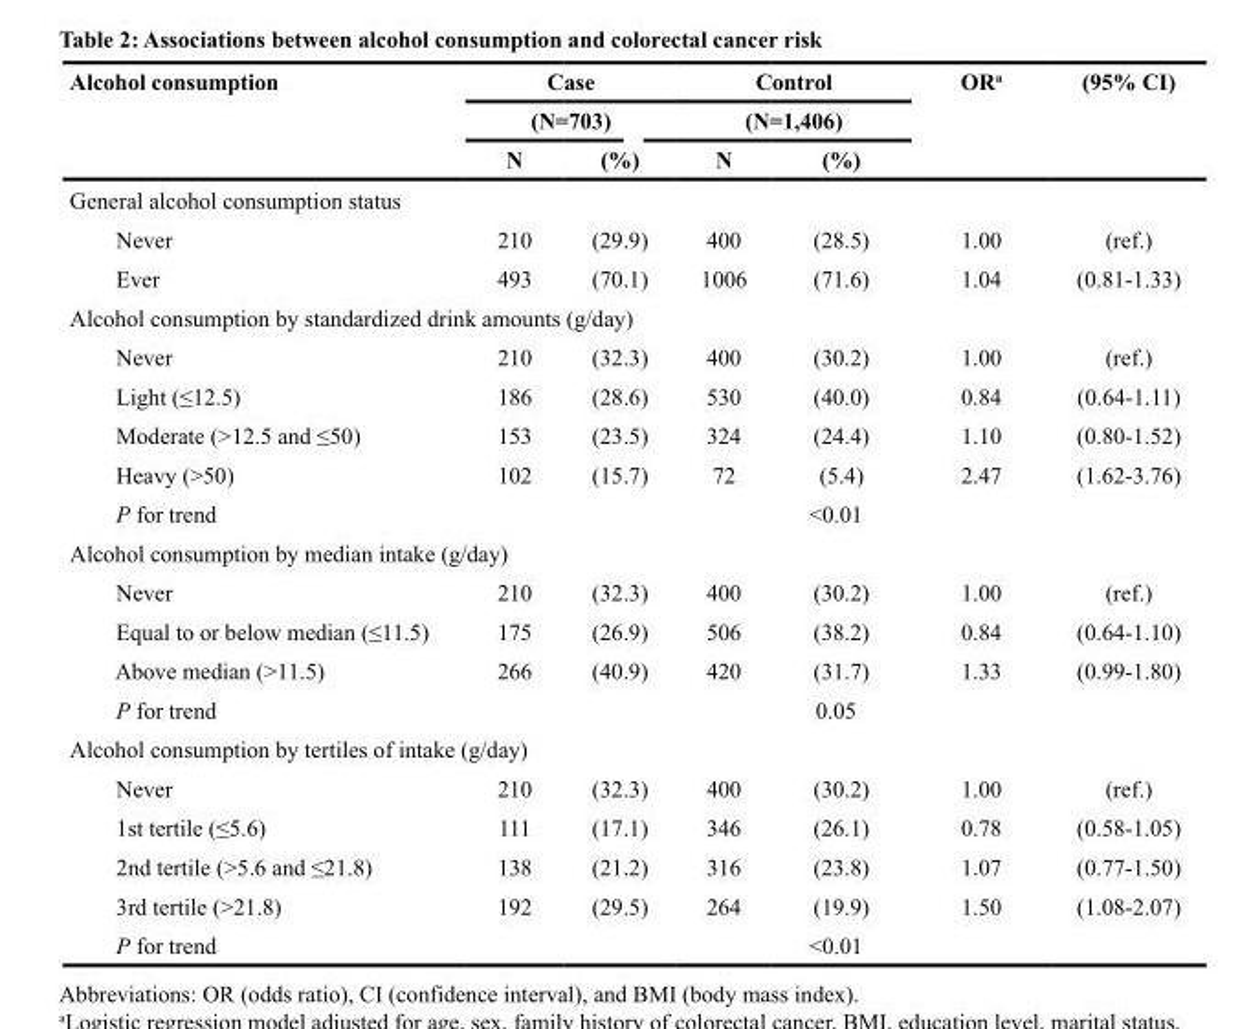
<table><thead><tr><td rowspan="3">Alcohol consumption</td><td rowspan="2" colspan="2">Case (N=703)</td><td rowspan="2" colspan="2">Control (N=1,406)</td><td rowspan="3">OR<sup>a</sup></td><td rowspan="3">(95% CI)</td></tr><tr></tr><tr><td>N</td><td>(%)</td><td>N</td><td>(%)</td></tr></thead><tbody><tr><td colspan="7">General alcohol consumption status</td></tr><tr><td>Never</td><td>210</td><td>(29.9)</td><td>400</td><td>(28.5)</td><td>1.00</td><td>(ref.)</td></tr><tr><td>Ever</td><td>493</td><td>(70.1)</td><td>1006</td><td>(71.6)</td><td>1.04</td><td>(0.81-1.33)</td></tr><tr><td colspan="7">Alcohol consumption by standardized drink amounts (g/day)</td></tr><tr><td>Never</td><td>210</td><td>(32.3)</td><td>400</td><td>(30.2)</td><td>1.00</td><td>(ref.)</td></tr><tr><td>Light (≤12.5)</td><td>186</td><td>(28.6)</td><td>530</td><td>(40.0)</td><td>0.84</td><td>(0.64-1.11)</td></tr><tr><td>Moderate (&gt;12.5 and ≤50)</td><td>153</td><td>(23.5)</td><td>324</td><td>(24.4)</td><td>1.10</td><td>(0.80-1.52)</td></tr><tr><td>Heavy (&gt;50)</td><td>102</td><td>(15.7)</td><td>72</td><td>(5.4)</td><td>2.47</td><td>(1.62-3.76)</td></tr><tr><td>P for trend</td><td colspan="6">&lt;0.01</td></tr><tr><td colspan="7">Alcohol consumption by median intake (g/day)</td></tr><tr><td>Never</td><td>210</td><td>(32.3)</td><td>400</td><td>(30.2)</td><td>1.00</td><td>(ref.)</td></tr><tr><td>Equal to or below median (≤11.5)</td><td>175</td><td>(26.9)</td><td>506</td><td>(38.2)</td><td>0.84</td><td>(0.64-1.10)</td></tr><tr><td>Above median (&gt;11.5)</td><td>266</td><td>(40.9)</td><td>420</td><td>(31.7)</td><td>1.33</td><td>(0.99-1.80)</td></tr><tr><td>P for trend</td><td colspan="6">0.05</td></tr><tr><td colspan="7">Alcohol consumption by tertiles of intake (g/day)</td></tr><tr><td>Never</td><td>210</td><td>(32.3)</td><td>400</td><td>(30.2)</td><td>1.00</td><td>(ref.)</td></tr><tr><td>1st tertile (≤5.6)</td><td>111</td><td>(17.1)</td><td>346</td><td>(26.1)</td><td>0.78</td><td>(0.58-1.05)</td></tr><tr><td>2nd tertile (&gt;5.6 and ≤21.8)</td><td>138</td><td>(21.2)</td><td>316</td><td>(23.8)</td><td>1.07</td><td>(0.77-1.50)</td></tr><tr><td>3rd tertile (&gt;21.8)</td><td>192</td><td>(29.5)</td><td>264</td><td>(19.9)</td><td>1.50</td><td>(1.08-2.07)</td></tr><tr><td>P for trend</td><td colspan="6">&lt;0.01</td></tr></tbody></table>